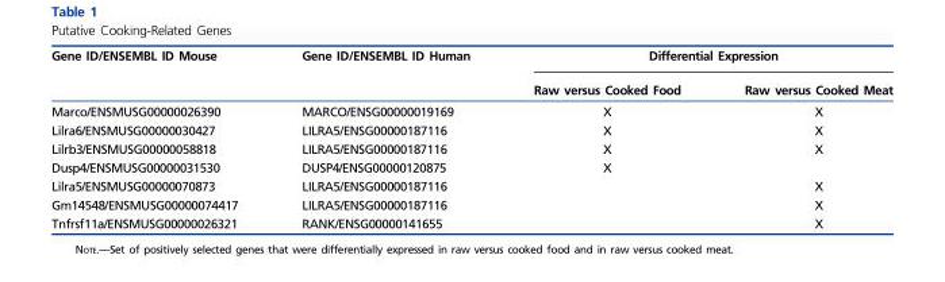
<table><thead><tr><td rowspan="2">Gene ID/ENSEMBL ID Mouse</td><td rowspan="2">Gene ID/ENSEMBL ID Human</td><td colspan="2">Differential Expression</td></tr><tr><td>Raw versus Cooked Food</td><td>Raw versus Cooked Meat</td></tr></thead><tbody><tr><td>Marco/ENSMUSG00000026390</td><td>MARCO/ENSG00000019169</td><td>X</td><td>X</td></tr><tr><td>Lilra6/ENSMUSG00000030427</td><td>LILRA5/ENSG00000187116</td><td>X</td><td>X</td></tr><tr><td>Lilrb3/ENSMUSG00000058818</td><td>LILRA5/ENSG00000187116</td><td>X</td><td>X</td></tr><tr><td>Dusp4/ENSMUSG00000031530</td><td>DUSP4/ENSG00000120875</td><td>X</td><td></td></tr><tr><td>Lilra5/ENSMUSG00000070873</td><td>LILRA5/ENSG00000187116</td><td></td><td>X</td></tr><tr><td>Gm14548/ENSMUSG00000074417</td><td>LILRA5/ENSG00000187116</td><td></td><td>X</td></tr><tr><td>Tnfrsf11a/ENSMUSG00000026321</td><td>RANK/ENSG00000141655</td><td></td><td>X</td></tr></tbody></table>